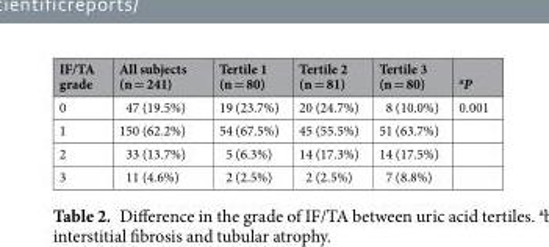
<table><thead><tr><td>IF/TA grade</td><td>All subjects (n = 241)</td><td>Tertile 1 (n = 80)</td><td>Tertile 2 (n = 81)</td><td>Tertile 3 (n = 80)</td><td><sup>a</sup>P</td></tr></thead><tbody><tr><td>0</td><td>47 (19.5%)</td><td>19 (23.7%)</td><td>20 (24.7%)</td><td>8 (10.0%)</td><td>0.001</td></tr><tr><td>1</td><td>150 (62.2%)</td><td>54 (67.5%)</td><td>45 (55.5%)</td><td>51 (63.7%)</td><td></td></tr><tr><td>2</td><td>33 (13.7%)</td><td>5 (6.3%)</td><td>14 (17.3%)</td><td>14 (17.5%)</td><td></td></tr><tr><td>3</td><td>11 (4.6%)</td><td>2 (2.5%)</td><td>2 (2.5%)</td><td>7 (8.8%)</td><td></td></tr></tbody></table>